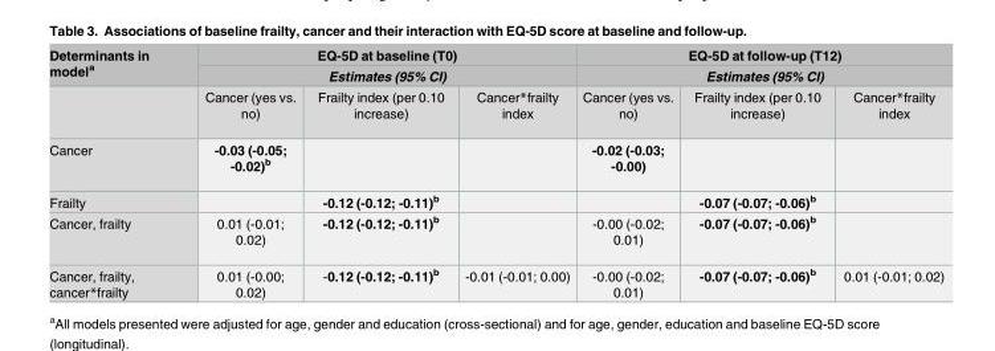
<table><thead><tr><td rowspan="3">Determinants in model<sup>a</sup></td><td rowspan="2" colspan="3">EQ-5D at baseline (T0) Estimates (95% CI)</td><td rowspan="2" colspan="3">EQ-5D at follow-up (T12) Estimates (95% CI)</td></tr><tr></tr><tr><td>Cancer (yes vs. no)</td><td>Frailty index (per 0.10 increase)</td><td>Cancer*frailty index</td><td>Cancer (yes vs. no)</td><td>Frailty index (per 0.10 increase)</td><td>Cancer*frailty index</td></tr></thead><tbody><tr><td>Cancer</td><td>-0.03 (-0.05; -0.02)<sup>b</sup></td><td></td><td></td><td>-0.02 (-0.03; -0.00)</td><td></td><td></td></tr><tr><td>Frailty</td><td></td><td>-0.12 (-0.12; -0.11)<sup>b</sup></td><td></td><td></td><td>-0.07 (-0.07; -0.06)<sup>b</sup></td><td></td></tr><tr><td>Cancer, frailty</td><td>0.01 (-0.01; 0.02)</td><td>-0.12 (-0.12; -0.11)<sup>b</sup></td><td></td><td>-0.00 (-0.02; 0.01)</td><td>-0.07 (-0.07; -0.06)<sup>b</sup></td><td></td></tr><tr><td>Cancer, frailty, cancer*frailty</td><td>0.01 (-0.00; 0.02)</td><td>-0.12 (-0.12; -0.11)<sup>b</sup></td><td>-0.01 (-0.01; 0.00)</td><td>-0.00 (-0.02; 0.01)</td><td>-0.07 (-0.07; -0.06)<sup>b</sup></td><td>0.01 (-0.01; 0.02)</td></tr></tbody></table>